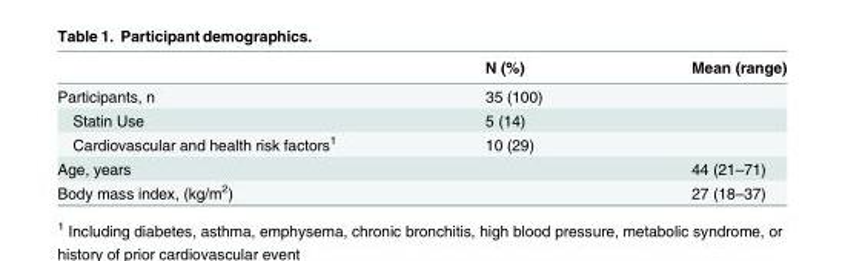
<table><thead><tr><td></td><td>N (%)</td><td>Mean (range)</td></tr></thead><tbody><tr><td>Participants, n</td><td>35 (100)</td><td></td></tr><tr><td>Statin Use</td><td>5 (14)</td><td></td></tr><tr><td>Cardiovascular and health risk factors<sup>1</sup></td><td>10 (29)</td><td></td></tr><tr><td>Age, years</td><td></td><td>44 (21–71)</td></tr><tr><td>Body mass index, (kg/m<sup>2</sup>)</td><td></td><td>27 (18–37)</td></tr></tbody></table>